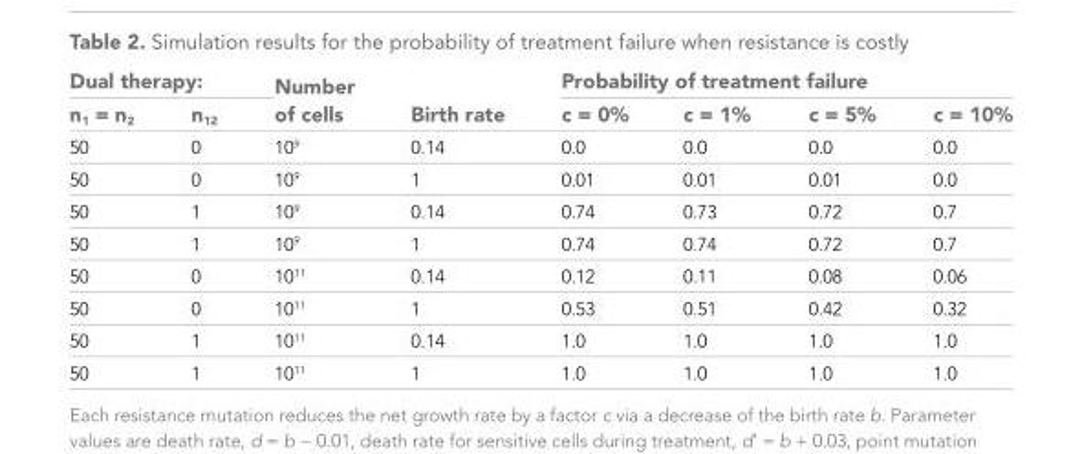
<table><thead><tr><td colspan="2">Dual therapy:</td><td rowspan="2">Number of cells</td><td rowspan="2">Birth rate</td><td colspan="4">Probability of treatment failure</td></tr><tr><td>n<sub>1</sub> = n<sub>2</sub></td><td>n<sub>12</sub></td><td>c = 0%</td><td>c = 1%</td><td>c = 5%</td><td>c = 10%</td></tr></thead><tbody><tr><td>50</td><td>0</td><td>10<sup>9</sup></td><td>0.14</td><td>0.0</td><td>0.0</td><td>0.0</td><td>0.0</td></tr><tr><td>50</td><td>0</td><td>10<sup>9</sup></td><td>1</td><td>0.01</td><td>0.01</td><td>0.01</td><td>0.0</td></tr><tr><td>50</td><td>1</td><td>10<sup>9</sup></td><td>0.14</td><td>0.74</td><td>0.73</td><td>0.72</td><td>0.7</td></tr><tr><td>50</td><td>1</td><td>10<sup>9</sup></td><td>1</td><td>0.74</td><td>0.74</td><td>0.72</td><td>0.7</td></tr><tr><td>50</td><td>0</td><td>10<sup>11</sup></td><td>0.14</td><td>0.12</td><td>0.11</td><td>0.08</td><td>0.06</td></tr><tr><td>50</td><td>0</td><td>10<sup>11</sup></td><td>1</td><td>0.53</td><td>0.51</td><td>0.42</td><td>0.32</td></tr><tr><td>50</td><td>1</td><td>10<sup>11</sup></td><td>0.14</td><td>1.0</td><td>1.0</td><td>1.0</td><td>1.0</td></tr><tr><td>50</td><td>1</td><td>10<sup>11</sup></td><td>1</td><td>1.0</td><td>1.0</td><td>1.0</td><td>1.0</td></tr></tbody></table>